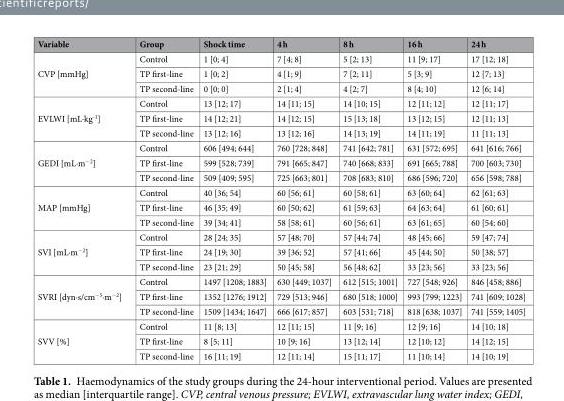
<table><thead><tr><td>Variable</td><td>Group</td><td>Shock time</td><td>4 h</td><td>8 h</td><td>16 h</td><td>24 h</td></tr></thead><tbody><tr><td rowspan="3">CVP [mmHg]</td><td>Control</td><td>1 [0; 4]</td><td>7 [4; 8]</td><td>5 [2; 13]</td><td>11 [9; 17]</td><td>17 [12; 18]</td></tr><tr><td>TP first-line</td><td>1 [0; 2]</td><td>4 [1; 9]</td><td>7 [2; 11]</td><td>5 [3; 9]</td><td>12 [7; 13]</td></tr><tr><td>TP second-line</td><td>0 [0; 0]</td><td>2 [1; 4]</td><td>4 [2; 7]</td><td>8 [4; 10]</td><td>12 [6; 14]</td></tr><tr><td rowspan="3">EVLWI [mL·kg<sup>-1</sup>]</td><td>Control</td><td>13 [12; 17]</td><td>14 [11; 15]</td><td>14 [10; 15]</td><td>12 [11; 12]</td><td>12 [11; 17]</td></tr><tr><td>TP first-line</td><td>14 [12; 21]</td><td>14 [12; 15]</td><td>15 [13; 18]</td><td>13 [12; 15]</td><td>12 [11; 13]</td></tr><tr><td>TP second-line</td><td>13 [12; 16]</td><td>13 [12; 16]</td><td>14 [13; 19]</td><td>14 [11; 19]</td><td>11 [11; 13]</td></tr><tr><td rowspan="3">GEDI [mL·m<sup>−2</sup>]</td><td>Control</td><td>606 [494; 644]</td><td>760 [728; 848]</td><td>741 [642; 781]</td><td>631 [572; 695]</td><td>641 [616; 766]</td></tr><tr><td>TP first-line</td><td>599 [528; 739]</td><td>791 [665; 847]</td><td>740 [668; 833]</td><td>691 [665; 788]</td><td>700 [603; 730]</td></tr><tr><td>TP second-line</td><td>509 [409; 595]</td><td>725 [663; 801]</td><td>708 [683; 810]</td><td>686 [596; 720]</td><td>656 [598; 788]</td></tr><tr><td rowspan="3">MAP [mmHg]</td><td>Control</td><td>40 [36; 54]</td><td>60 [56; 61]</td><td>60 [58; 61]</td><td>63 [60; 64]</td><td>62 [61; 63]</td></tr><tr><td>TP first-line</td><td>46 [35; 49]</td><td>60 [50; 62]</td><td>61 [59; 63]</td><td>64 [63; 64]</td><td>61 [60; 61]</td></tr><tr><td>TP second-line</td><td>39 [34; 41]</td><td>58 [58; 61]</td><td>60 [56; 61]</td><td>63 [61; 65]</td><td>60 [54; 60]</td></tr><tr><td rowspan="3">SVI [mL·m<sup>−2</sup>]</td><td>Control</td><td>28 [24; 35]</td><td>57 [48; 70]</td><td>57 [44; 74]</td><td>48 [45; 66]</td><td>59 [47; 74]</td></tr><tr><td>TP first-line</td><td>24 [19; 30]</td><td>39 [36; 52]</td><td>57 [41; 66]</td><td>45 [44; 50]</td><td>50 [38; 57]</td></tr><tr><td>TP second-line</td><td>23 [21; 29]</td><td>50 [45; 58]</td><td>56 [48; 62]</td><td>33 [23; 56]</td><td>33 [23; 56]</td></tr><tr><td rowspan="3">SVRI [dyn·s/cm<sup>−5</sup>·m<sup>−2</sup>]</td><td>Control</td><td>1497 [1208; 1883]</td><td>630 [449; 1037]</td><td>612 [515; 1001]</td><td>727 [548; 926]</td><td>846 [458; 886]</td></tr><tr><td>TP first-line</td><td>1352 [1276; 1912]</td><td>729 [513; 946]</td><td>680 [518; 1000]</td><td>993 [799; 1223]</td><td>741 [609; 1028]</td></tr><tr><td>TP second-line</td><td>1509 [1434; 1647]</td><td>666 [617; 857]</td><td>603 [531; 718]</td><td>818 [638; 1037]</td><td>741 [559; 1405]</td></tr><tr><td rowspan="3">SVV [%]</td><td>Control</td><td>11 [8; 13]</td><td>12 [11; 15]</td><td>11 [9; 16]</td><td>12 [9; 16]</td><td>14 [10; 18]</td></tr><tr><td>TP first-line</td><td>8 [5; 11]</td><td>10 [9; 16]</td><td>13 [12; 14]</td><td>12 [10; 12]</td><td>14 [12; 15]</td></tr><tr><td>TP second-line</td><td>16 [11; 19]</td><td>12 [11; 14]</td><td>15 [11; 17]</td><td>11 [10; 14]</td><td>14 [10; 19]</td></tr></tbody></table>